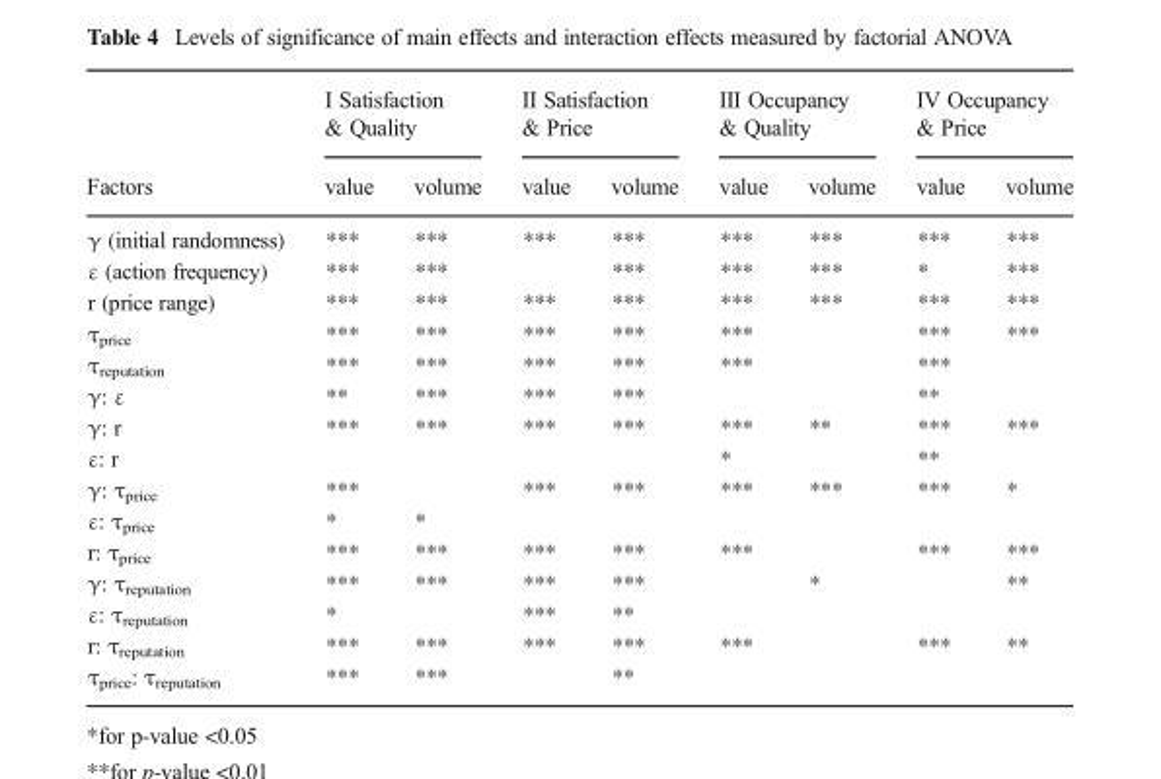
<table><thead><tr><td rowspan="2">Factors</td><td colspan="2">I Satisfaction &amp; Quality</td><td colspan="2">II Satisfaction &amp; Price</td><td colspan="2">III Occupancy &amp; Quality</td><td colspan="2">IV Occupancy &amp; Price</td></tr><tr><td>value</td><td>volume</td><td>value</td><td>volume</td><td>value</td><td>volume</td><td>value</td><td>volume</td></tr></thead><tbody><tr><td>γ (initial randomness)</td><td>***</td><td>***</td><td>***</td><td>***</td><td>***</td><td>***</td><td>***</td><td>***</td></tr><tr><td>ε (action frequency)</td><td>***</td><td>***</td><td></td><td>***</td><td>***</td><td>***</td><td>*</td><td>***</td></tr><tr><td>r (price range)</td><td>***</td><td>***</td><td>***</td><td>***</td><td>***</td><td>***</td><td>***</td><td>***</td></tr><tr><td>τ<sub>price</sub></td><td>***</td><td>***</td><td>***</td><td>***</td><td>***</td><td></td><td>***</td><td>***</td></tr><tr><td>τ<sub>reputation</sub></td><td>***</td><td>***</td><td>***</td><td>***</td><td>***</td><td></td><td>***</td><td></td></tr><tr><td>γ: ε</td><td>**</td><td>***</td><td>***</td><td>***</td><td></td><td></td><td>**</td><td></td></tr><tr><td>γ: r</td><td>***</td><td>***</td><td>***</td><td>***</td><td>***</td><td>**</td><td>***</td><td>***</td></tr><tr><td>ε: r</td><td></td><td></td><td></td><td></td><td>*</td><td></td><td>**</td><td></td></tr><tr><td>γ: τ<sub>price</sub></td><td>***</td><td></td><td>***</td><td>***</td><td>***</td><td>***</td><td>***</td><td>*</td></tr><tr><td>ε: τ<sub>price</sub></td><td>*</td><td>*</td><td></td><td></td><td></td><td></td><td></td><td></td></tr><tr><td>r: τ<sub>price</sub></td><td>***</td><td>***</td><td>***</td><td>***</td><td>***</td><td></td><td>***</td><td>***</td></tr><tr><td>γ: τ<sub>reputation</sub></td><td>***</td><td>***</td><td>***</td><td>***</td><td></td><td>*</td><td></td><td>**</td></tr><tr><td>ε: τ<sub>reputation</sub></td><td>*</td><td></td><td>***</td><td>**</td><td></td><td></td><td></td><td></td></tr><tr><td>r: τ<sub>reputation</sub></td><td>***</td><td>***</td><td>***</td><td>***</td><td>***</td><td></td><td>***</td><td>**</td></tr><tr><td>τ<sub>price</sub>: τ<sub>reputation</sub></td><td>***</td><td>***</td><td></td><td>**</td><td></td><td></td><td></td><td></td></tr></tbody></table>